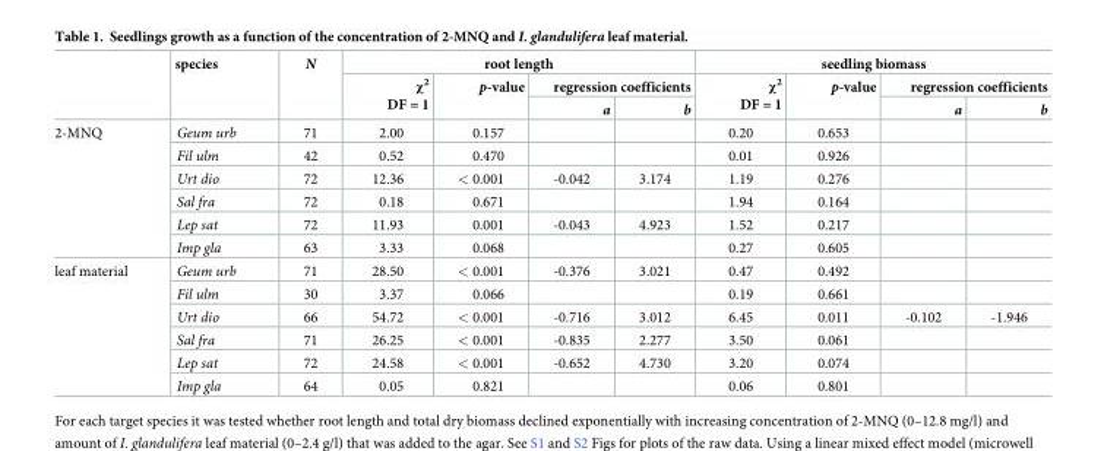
<table><thead><tr><td rowspan="3"></td><td rowspan="3">species</td><td rowspan="3">N</td><td colspan="4">root length</td><td colspan="4">seedling biomass</td></tr><tr><td rowspan="2">χ<sup>2</sup> DF = 1</td><td rowspan="2">p-value</td><td colspan="2">regression coefficients</td><td rowspan="2">χ<sup>2</sup> DF = 1</td><td rowspan="2">p-value</td><td colspan="2">regression coefficients</td></tr><tr><td>a</td><td>b</td><td>a</td><td>b</td></tr></thead><tbody><tr><td rowspan="6">2-MNQ</td><td>Geum urb</td><td>71</td><td>2.00</td><td>0.157</td><td></td><td></td><td>0.20</td><td>0.653</td><td></td><td></td></tr><tr><td>Fil ulm</td><td>42</td><td>0.52</td><td>0.470</td><td></td><td></td><td>0.01</td><td>0.926</td><td></td><td></td></tr><tr><td>Urt dio</td><td>72</td><td>12.36</td><td>&lt; 0.001</td><td>-0.042</td><td>3.174</td><td>1.19</td><td>0.276</td><td></td><td></td></tr><tr><td>Sal fra</td><td>72</td><td>0.18</td><td>0.671</td><td></td><td></td><td>1.94</td><td>0.164</td><td></td><td></td></tr><tr><td>Lep sat</td><td>72</td><td>11.93</td><td>0.001</td><td>-0.043</td><td>4.923</td><td>1.52</td><td>0.217</td><td></td><td></td></tr><tr><td>Imp gla</td><td>63</td><td>3.33</td><td>0.068</td><td></td><td></td><td>0.27</td><td>0.605</td><td></td><td></td></tr><tr><td rowspan="6">leaf material</td><td>Geum urb</td><td>71</td><td>28.50</td><td>&lt; 0.001</td><td>-0.376</td><td>3.021</td><td>0.47</td><td>0.492</td><td></td><td></td></tr><tr><td>Fil ulm</td><td>30</td><td>3.37</td><td>0.066</td><td></td><td></td><td>0.19</td><td>0.661</td><td></td><td></td></tr><tr><td>Urt dio</td><td>66</td><td>54.72</td><td>&lt; 0.001</td><td>-0.716</td><td>3.012</td><td>6.45</td><td>0.011</td><td>-0.102</td><td>-1.946</td></tr><tr><td>Sal fra</td><td>71</td><td>26.25</td><td>&lt; 0.001</td><td>-0.835</td><td>2.277</td><td>3.50</td><td>0.061</td><td></td><td></td></tr><tr><td>Lep sat</td><td>72</td><td>24.58</td><td>&lt; 0.001</td><td>-0.652</td><td>4.730</td><td>3.20</td><td>0.074</td><td></td><td></td></tr><tr><td>Imp gla</td><td>64</td><td>0.05</td><td>0.821</td><td></td><td></td><td>0.06</td><td>0.801</td><td></td><td></td></tr></tbody></table>